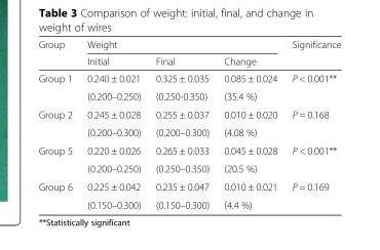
<table><thead><tr><td rowspan="2">Group</td><td colspan="3">Weight</td><td rowspan="2">Significance</td></tr><tr><td>Initial</td><td>Final</td><td>Change</td></tr></thead><tbody><tr><td rowspan="2">Group 1</td><td>0.240 ± 0.021</td><td>0.325 ± 0.035</td><td>0.085 ± 0.024</td><td rowspan="2">P &lt; 0.001**</td></tr><tr><td>(0.200–0.250)</td><td>(0.250-0.350)</td><td>(35.4 %)</td></tr><tr><td rowspan="2">Group 2</td><td>0.245 ± 0.028</td><td>0.255 ± 0.037</td><td>0.010 ± 0.020</td><td rowspan="2">P = 0.168</td></tr><tr><td>(0.200–0.300)</td><td>(0.200–0.300)</td><td>(4.08 %)</td></tr><tr><td rowspan="2">Group 5</td><td>0.220 ± 0.026</td><td>0.265 ± 0.033</td><td>0.045 ± 0.028</td><td rowspan="2">P &lt; 0.001**</td></tr><tr><td>(0.200–0.250)</td><td>(0.250–0.350)</td><td>(20.5 %)</td></tr><tr><td rowspan="2">Group 6</td><td>0.225 ± 0.042</td><td>0.235 ± 0.047</td><td>0.010 ± 0.021</td><td rowspan="2">P = 0.169</td></tr><tr><td>(0.150–0.300)</td><td>(0.150–0.300)</td><td>(4.4 %)</td></tr></tbody></table>